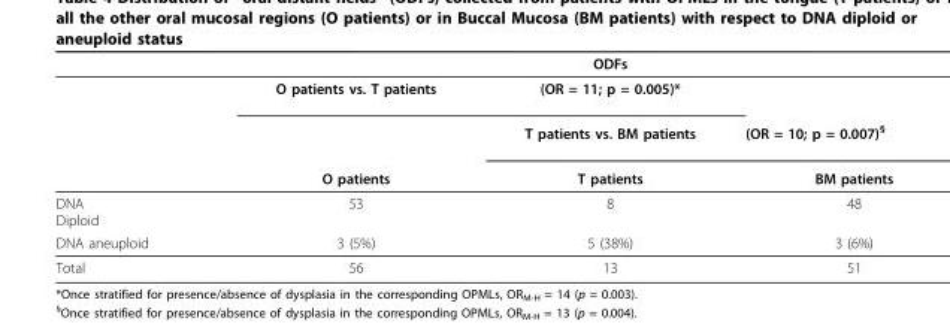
<table><thead><tr><td></td><td></td><td>ODFs</td><td></td></tr></thead><tbody><tr><td></td><td>O patients vs. T patients</td><td>(OR = 11; p = 0.005)*</td><td></td></tr><tr><td></td><td></td><td>T patients vs. BM patients</td><td>(OR = 10; p = 0.007)§</td></tr><tr><td></td><td>O patients</td><td>T patients</td><td>BM patients</td></tr><tr><td>DNA Diploid</td><td>53</td><td>8</td><td>48</td></tr><tr><td>DNA aneuploid</td><td>3 (5%)</td><td>5 (38%)</td><td>3 (6%)</td></tr><tr><td>Total</td><td>56</td><td>13</td><td>51</td></tr></tbody></table>